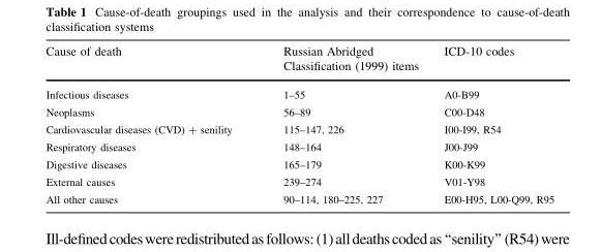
<table><thead><tr><td>Cause of death</td><td>Russian Abridged Classification (1999) items</td><td>ICD-10 codes</td></tr></thead><tbody><tr><td>Infectious diseases</td><td>1–55</td><td>A0-B99</td></tr><tr><td>Neoplasms</td><td>56–89</td><td>C00-D48</td></tr><tr><td>Cardiovascular diseases (CVD) + senility</td><td>115–147, 226</td><td>I00-I99, R54</td></tr><tr><td>Respiratory diseases</td><td>148–164</td><td>J00-J99</td></tr><tr><td>Digestive diseases</td><td>165–179</td><td>K00-K99</td></tr><tr><td>External causes</td><td>239–274</td><td>V01-Y98</td></tr><tr><td>All other causes</td><td>90–114, 180–225, 227</td><td>E00-H95, L00-Q99, R95</td></tr></tbody></table>